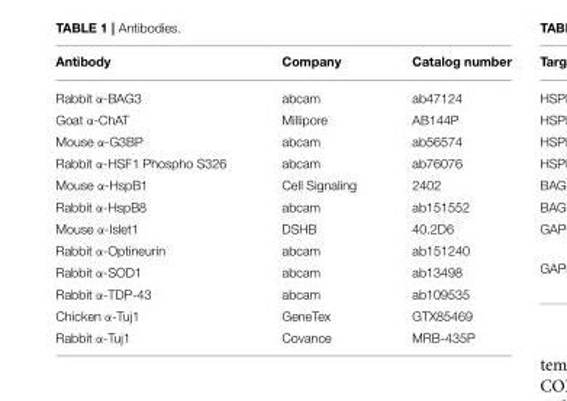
<table><thead><tr><td>Antibody</td><td>Company</td><td>Catalog number</td></tr></thead><tbody><tr><td>Rabbit α-BAG3</td><td>abcam</td><td>ab47124</td></tr><tr><td>Goat α-ChAT</td><td>Millipore</td><td>AB144P</td></tr><tr><td>Mouse α-G3BP</td><td>abcam</td><td>ab56574</td></tr><tr><td>Rabbit α-HSF1 Phospho S326</td><td>abcam</td><td>ab76076</td></tr><tr><td>Mouse α-HspB1</td><td>Cell Signaling</td><td>2402</td></tr><tr><td>Rabbit α-HspB8</td><td>abcam</td><td>ab151552</td></tr><tr><td>Mouse α-Islet1</td><td>DSHB</td><td>40.2D6</td></tr><tr><td>Rabbit α-Optineurin</td><td>abcam</td><td>ab151240</td></tr><tr><td>Rabbit α-SOD1</td><td>abcam</td><td>ab13498</td></tr><tr><td>Rabbit α-TDP-43</td><td>abcam</td><td>ab109535</td></tr><tr><td>Chicken α-Tuj1</td><td>GeneTex</td><td>GTX85469</td></tr><tr><td>Rabbit α-Tuj1</td><td>Covance</td><td>MRB-435P</td></tr></tbody></table>